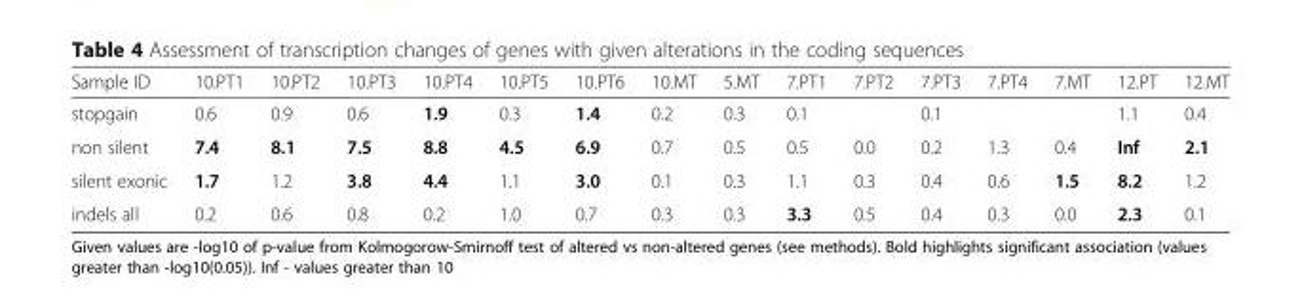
<table><thead><tr><td>Sample ID</td><td>10.PT1</td><td>10.PT2</td><td>10.PT3</td><td>10.PT4</td><td>10.PT5</td><td>10.PT6</td><td>10.MT</td><td>5.MT</td><td>7.PT1</td><td>7.PT2</td><td>7.PT3</td><td>7.PT4</td><td>7.MT</td><td>12.PT</td><td>12.MT</td></tr></thead><tbody><tr><td>stopgain</td><td>0.6</td><td>0.9</td><td>0.6</td><td>1.9</td><td>0.3</td><td>1.4</td><td>0.2</td><td>0.3</td><td>0.1</td><td></td><td>0.1</td><td></td><td></td><td>1.1</td><td>0.4</td></tr><tr><td>non silent</td><td>7.4</td><td>8.1</td><td>7.5</td><td>8.8</td><td>4.5</td><td>6.9</td><td>0.7</td><td>0.5</td><td>0.5</td><td>0.0</td><td>0.2</td><td>1.3</td><td>0.4</td><td>Inf</td><td>2.1</td></tr><tr><td>silent exonic</td><td>1.7</td><td>1.2</td><td>3.8</td><td>4.4</td><td>1.1</td><td>3.0</td><td>0.1</td><td>0.3</td><td>1.1</td><td>0.3</td><td>0.4</td><td>0.6</td><td>1.5</td><td>8.2</td><td>1.2</td></tr><tr><td>indels all</td><td>0.2</td><td>0.6</td><td>0.8</td><td>0.2</td><td>1.0</td><td>0.7</td><td>0.3</td><td>0.3</td><td>3.3</td><td>0.5</td><td>0.4</td><td>0.3</td><td>0.0</td><td>2.3</td><td>0.1</td></tr></tbody></table>